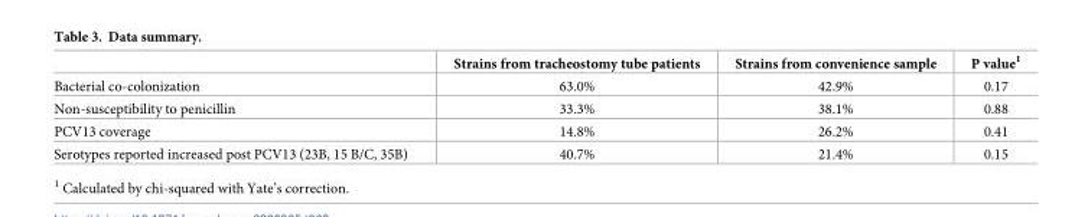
<table><thead><tr><td></td><td>Strains from tracheostomy tube patients</td><td>Strains from convenience sample</td><td>P value<sup>1</sup></td></tr></thead><tbody><tr><td>Bacterial co-colonization</td><td>63.0%</td><td>42.9%</td><td>0.17</td></tr><tr><td>Non-susceptibility to penicillin</td><td>33.3%</td><td>38.1%</td><td>0.88</td></tr><tr><td>PCV13 coverage</td><td>14.8%</td><td>26.2%</td><td>0.41</td></tr><tr><td>Serotypes reported increased post PCV13 (23B, 15 B/C, 35B)</td><td>40.7%</td><td>21.4%</td><td>0.15</td></tr></tbody></table>